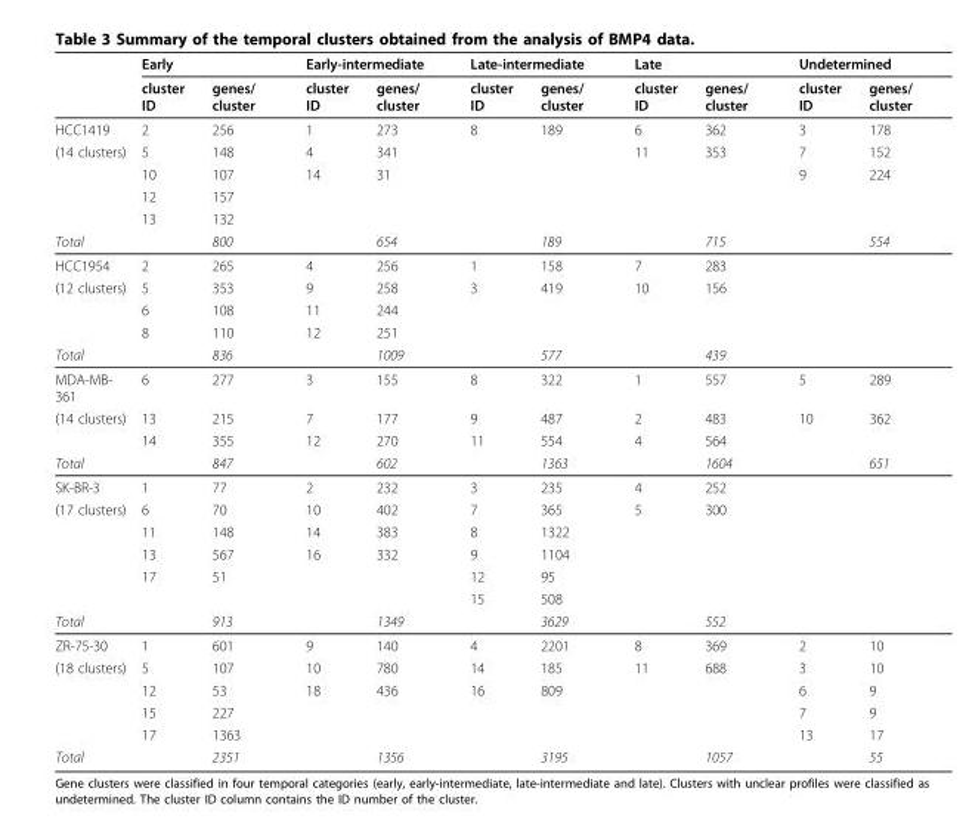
<table><thead><tr><td rowspan="2"></td><td colspan="2">Early</td><td colspan="2">Early-intermediate</td><td colspan="2">Late-intermediate</td><td colspan="2">Late</td><td colspan="2">Undetermined</td></tr><tr><td>cluster ID</td><td>genes/ cluster</td><td>cluster ID</td><td>genes/ cluster</td><td>cluster ID</td><td>genes/ cluster</td><td>cluster ID</td><td>genes/ cluster</td><td>cluster ID</td><td>genes/ cluster</td></tr></thead><tbody><tr><td>HCC1419</td><td>2</td><td>256</td><td>1</td><td>273</td><td>8</td><td>189</td><td>6</td><td>362</td><td>3</td><td>178</td></tr><tr><td rowspan="4">(14 clusters)</td><td>5</td><td>148</td><td>4</td><td>341</td><td></td><td></td><td>11</td><td>353</td><td>7</td><td>152</td></tr><tr><td>10</td><td>107</td><td>14</td><td>31</td><td></td><td></td><td></td><td></td><td>9</td><td>224</td></tr><tr><td>12</td><td>157</td><td></td><td></td><td></td><td></td><td></td><td></td><td></td><td></td></tr><tr><td>13</td><td>132</td><td></td><td></td><td></td><td></td><td></td><td></td><td></td><td></td></tr><tr><td>Total</td><td></td><td>800</td><td></td><td>654</td><td></td><td>189</td><td></td><td>715</td><td></td><td>554</td></tr><tr><td>HCC1954</td><td>2</td><td>265</td><td>4</td><td>256</td><td>1</td><td>158</td><td>7</td><td>283</td><td></td><td></td></tr><tr><td rowspan="3">(12 clusters)</td><td>5</td><td>353</td><td>9</td><td>258</td><td>3</td><td>419</td><td>10</td><td>156</td><td></td><td></td></tr><tr><td>6</td><td>108</td><td>11</td><td>244</td><td></td><td></td><td></td><td></td><td></td><td></td></tr><tr><td>8</td><td>110</td><td>12</td><td>251</td><td></td><td></td><td></td><td></td><td></td><td></td></tr><tr><td>Total</td><td></td><td>836</td><td></td><td>1009</td><td></td><td>577</td><td></td><td>439</td><td></td><td></td></tr><tr><td>MDA-MB- 361</td><td>6</td><td>277</td><td>3</td><td>155</td><td>8</td><td>322</td><td>1</td><td>557</td><td>5</td><td>289</td></tr><tr><td rowspan="2">(14 clusters)</td><td>13</td><td>215</td><td>7</td><td>177</td><td>9</td><td>487</td><td>2</td><td>483</td><td>10</td><td>362</td></tr><tr><td>14</td><td>355</td><td>12</td><td>270</td><td>11</td><td>554</td><td>4</td><td>564</td><td></td><td></td></tr><tr><td>Total</td><td></td><td>847</td><td></td><td>602</td><td></td><td>1363</td><td></td><td>1604</td><td></td><td>651</td></tr><tr><td>SK-BR-3</td><td>1</td><td>77</td><td>2</td><td>232</td><td>3</td><td>235</td><td>4</td><td>252</td><td></td><td></td></tr><tr><td rowspan="5">(17 clusters)</td><td>6</td><td>70</td><td>10</td><td>402</td><td>7</td><td>365</td><td>5</td><td>300</td><td></td><td></td></tr><tr><td>11</td><td>148</td><td>14</td><td>383</td><td>8</td><td>1322</td><td></td><td></td><td></td><td></td></tr><tr><td>13</td><td>567</td><td>16</td><td>332</td><td>9</td><td>1104</td><td></td><td></td><td></td><td></td></tr><tr><td>17</td><td>51</td><td></td><td></td><td>12</td><td>95</td><td></td><td></td><td></td><td></td></tr><tr><td></td><td></td><td></td><td></td><td>15</td><td>508</td><td></td><td></td><td></td><td></td></tr><tr><td>Total</td><td></td><td>913</td><td></td><td>1349</td><td></td><td>3629</td><td></td><td>552</td><td></td><td></td></tr><tr><td>ZR-75-30</td><td>1</td><td>601</td><td>9</td><td>140</td><td>4</td><td>2201</td><td>8</td><td>369</td><td>2</td><td>10</td></tr><tr><td rowspan="4">(18 clusters)</td><td>5</td><td>107</td><td>10</td><td>780</td><td>14</td><td>185</td><td>11</td><td>688</td><td>3</td><td>10</td></tr><tr><td>12</td><td>53</td><td>18</td><td>436</td><td>16</td><td>809</td><td></td><td></td><td>6</td><td>9</td></tr><tr><td>15</td><td>227</td><td></td><td></td><td></td><td></td><td></td><td></td><td>7</td><td>9</td></tr><tr><td>17</td><td>1363</td><td></td><td></td><td></td><td></td><td></td><td></td><td>13</td><td>17</td></tr><tr><td>Total</td><td></td><td>2351</td><td></td><td>1356</td><td></td><td>3195</td><td></td><td>1057</td><td></td><td>55</td></tr></tbody></table>